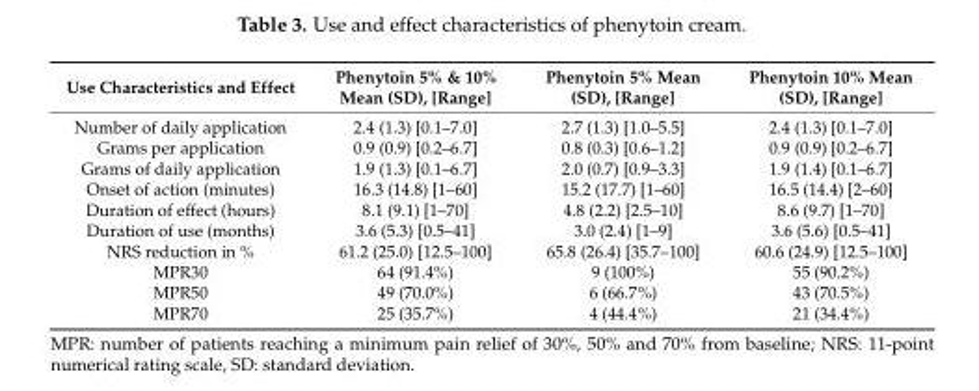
<table><thead><tr><td>Use Characteristics and Effect</td><td>Phenytoin 5% &amp; 10% Mean (SD), [Range]</td><td>Phenytoin 5% Mean (SD), [Range]</td><td>Phenytoin 10% Mean (SD), [Range]</td></tr></thead><tbody><tr><td>Number of daily application</td><td>2.4 (1.3) [0.1–7.0]</td><td>2.7 (1.3) [1.0–5.5]</td><td>2.4 (1.3) [0.1–7.0]</td></tr><tr><td>Grams per application</td><td>0.9 (0.9) [0.2–6.7]</td><td>0.8 (0.3) [0.6–1.2]</td><td>0.9 (0.9) [0.2–6.7]</td></tr><tr><td>Grams of daily application</td><td>1.9 (1.3) [0.1–6.7]</td><td>2.0 (0.7) [0.9–3.3]</td><td>1.9 (1.4) [0.1–6.7]</td></tr><tr><td>Onset of action (minutes)</td><td>16.3 (14.8) [1–60]</td><td>15.2 (17.7) [1–60]</td><td>16.5 (14.4) [2–60]</td></tr><tr><td>Duration of effect (hours)</td><td>8.1 (9.1) [1–70]</td><td>4.8 (2.2) [2.5–10]</td><td>8.6 (9.7) [1–70]</td></tr><tr><td>Duration of use (months)</td><td>3.6 (5.3) [0.5–41]</td><td>3.0 (2.4) [1–9]</td><td>3.6 (5.6) [0.5–41]</td></tr><tr><td>NRS reduction in %</td><td>61.2 (25.0) [12.5–100]</td><td>65.8 (26.4) [35.7–100]</td><td>60.6 (24.9) [12.5–100]</td></tr><tr><td>MPR30</td><td>64 (91.4%)</td><td>9 (100%)</td><td>55 (90.2%)</td></tr><tr><td>MPR50</td><td>49 (70.0%)</td><td>6 (66.7%)</td><td>43 (70.5%)</td></tr><tr><td>MPR70</td><td>25 (35.7%)</td><td>4 (44.4%)</td><td>21 (34.4%)</td></tr></tbody></table>